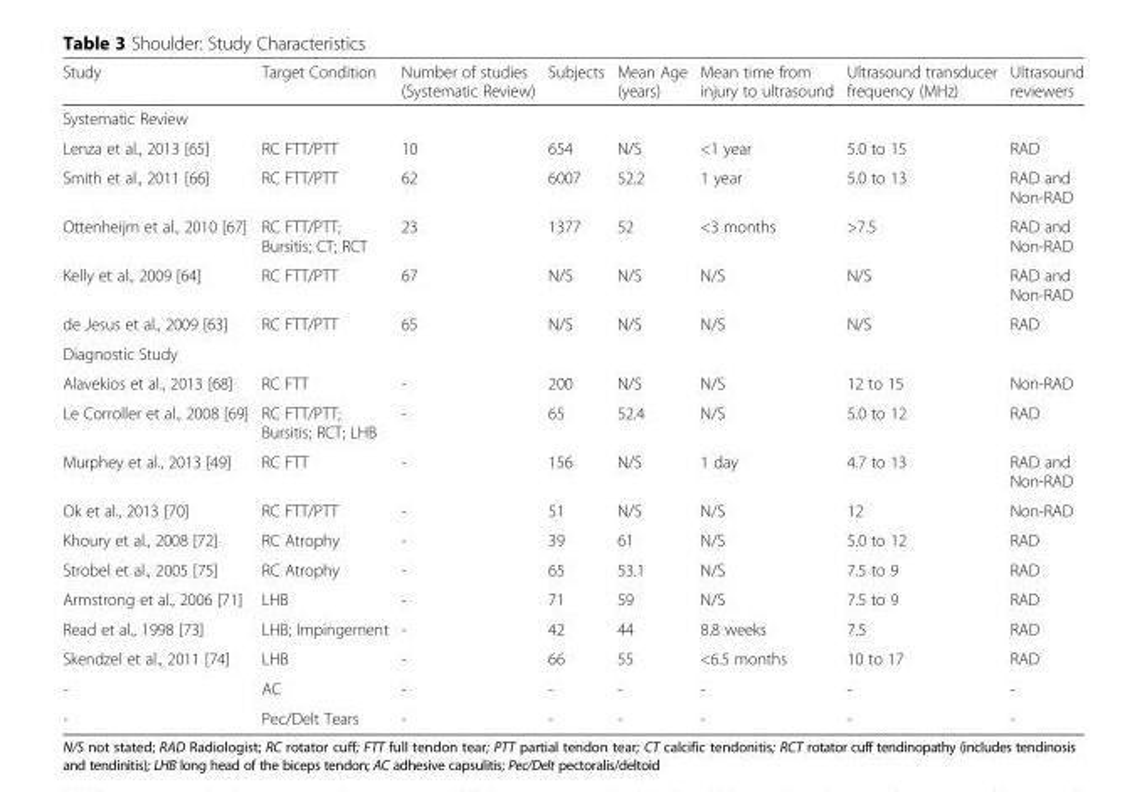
<table><thead><tr><td>Study</td><td>Target Condition</td><td>Number of studies (Systematic Review)</td><td>Subjects</td><td>Mean Age (years)</td><td>Mean time from injury to ultrasound</td><td>Ultrasound transducer frequency (MHz)</td><td>Ultrasound reviewers</td></tr></thead><tbody><tr><td colspan="8">Systematic Review</td></tr><tr><td>Lenza et al., 2013 [65]</td><td>RC FTT/PTT</td><td>10</td><td>654</td><td>N/S</td><td>&lt;1 year</td><td>5.0 to 15</td><td>RAD</td></tr><tr><td>Smith et al., 2011 [66]</td><td>RC FTT/PTT</td><td>62</td><td>6007</td><td>52.2</td><td>1 year</td><td>5.0 to 13</td><td>RAD and Non-RAD</td></tr><tr><td>Ottenheijm et al., 2010 [67]</td><td>RC FTT/PTT; Bursitis; CT; RCT</td><td>23</td><td>1377</td><td>52</td><td>&lt;3 months</td><td>&gt;7.5</td><td>RAD and Non-RAD</td></tr><tr><td>Kelly et al., 2009 [64]</td><td>RC FTT/PTT</td><td>67</td><td>N/S</td><td>N/S</td><td>N/S</td><td>N/S</td><td>RAD and Non-RAD</td></tr><tr><td>de Jesus et al., 2009 [63]</td><td>RC FTT/PTT</td><td>65</td><td>N/S</td><td>N/S</td><td>N/S</td><td>N/S</td><td>RAD</td></tr><tr><td colspan="8">Diagnostic Study</td></tr><tr><td>Alavekios et al., 2013 [68]</td><td>RC FTT</td><td>-</td><td>200</td><td>N/S</td><td>N/S</td><td>12 to 15</td><td>Non-RAD</td></tr><tr><td>Le Corroller et al., 2008 [69]</td><td>RC FTT/PTT; Bursitis; RCT; LHB</td><td>-</td><td>65</td><td>52.4</td><td>N/S</td><td>5.0 to 12</td><td>RAD</td></tr><tr><td>Murphey et al., 2013 [49]</td><td>RC FTT</td><td>-</td><td>156</td><td>N/S</td><td>1 day</td><td>4.7 to 13</td><td>RAD and Non-RAD</td></tr><tr><td>Ok et al., 2013 [70]</td><td>RC FTT/PTT</td><td>-</td><td>51</td><td>N/S</td><td>N/S</td><td>12</td><td>Non-RAD</td></tr><tr><td>Khoury et al., 2008 [72]</td><td>RC Atrophy</td><td>-</td><td>39</td><td>61</td><td>N/S</td><td>5.0 to 12</td><td>RAD</td></tr><tr><td>Strobel et al., 2005 [75]</td><td>RC Atrophy</td><td>-</td><td>65</td><td>53.1</td><td>N/S</td><td>7.5 to 9</td><td>RAD</td></tr><tr><td>Armstrong et al., 2006 [71]</td><td>LHB</td><td>-</td><td>71</td><td>59</td><td>N/S</td><td>7.5 to 9</td><td>RAD</td></tr><tr><td>Read et al., 1998 [73]</td><td>LHB; Impingement</td><td>-</td><td>42</td><td>44</td><td>8.8 weeks</td><td>7.5</td><td>RAD</td></tr><tr><td>Skendzel et al., 2011 [74]</td><td>LHB</td><td>-</td><td>66</td><td>55</td><td>&lt;6.5 months</td><td>10 to 17</td><td>RAD</td></tr><tr><td>-</td><td>AC</td><td>-</td><td>-</td><td>-</td><td>-</td><td>-</td><td>-</td></tr><tr><td>-</td><td>Pec/Delt Tears</td><td>-</td><td>-</td><td>-</td><td>-</td><td>-</td><td>-</td></tr></tbody></table>